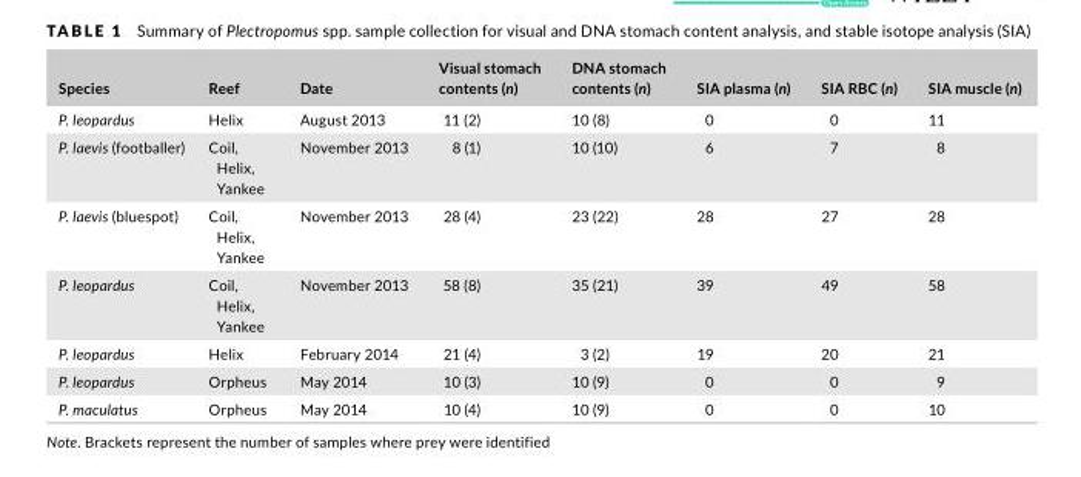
<table><thead><tr><td>Species</td><td>Reef</td><td>Date</td><td>Visual stomach contents (n)</td><td>DNA stomach contents (n)</td><td>SIA plasma (n)</td><td>SIA RBC (n)</td><td>SIA muscle (n)</td></tr></thead><tbody><tr><td>P. leopardus</td><td>Helix</td><td>August 2013</td><td>11 (2)</td><td>10 (8)</td><td>0</td><td>0</td><td>11</td></tr><tr><td>P. laevis (footballer)</td><td>Coil, Helix, Yankee</td><td>November 2013</td><td>8 (1)</td><td>10 (10)</td><td>6</td><td>7</td><td>8</td></tr><tr><td>P. laevis (bluespot)</td><td>Coil, Helix, Yankee</td><td>November 2013</td><td>28 (4)</td><td>23 (22)</td><td>28</td><td>27</td><td>28</td></tr><tr><td>P. leopardus</td><td>Coil, Helix, Yankee</td><td>November 2013</td><td>58 (8)</td><td>35 (21)</td><td>39</td><td>49</td><td>58</td></tr><tr><td>P. leopardus</td><td>Helix</td><td>February 2014</td><td>21 (4)</td><td>3 (2)</td><td>19</td><td>20</td><td>21</td></tr><tr><td>P. leopardus</td><td>Orpheus</td><td>May 2014</td><td>10 (3)</td><td>10 (9)</td><td>0</td><td>0</td><td>9</td></tr><tr><td>P. maculatus</td><td>Orpheus</td><td>May 2014</td><td>10 (4)</td><td>10 (9)</td><td>0</td><td>0</td><td>10</td></tr></tbody></table>